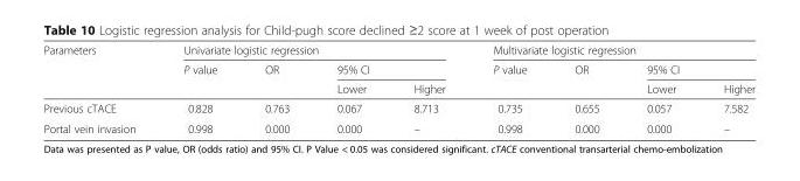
<table><thead><tr><td rowspan="3">Parameters</td><td colspan="4">Univariate logistic regression</td><td colspan="4">Multivariate logistic regression</td></tr><tr><td rowspan="2">P value</td><td rowspan="2">OR</td><td colspan="2">95% CI</td><td rowspan="2">P value</td><td rowspan="2">OR</td><td colspan="2">95% CI</td></tr><tr><td>Lower</td><td>Higher</td><td>Lower</td><td>Higher</td></tr></thead><tbody><tr><td>Previous cTACE</td><td>0.828</td><td>0.763</td><td>0.067</td><td>8.713</td><td>0.735</td><td>0.655</td><td>0.057</td><td>7.582</td></tr><tr><td>Portal vein invasion</td><td>0.998</td><td>0.000</td><td>0.000</td><td>–</td><td>0.998</td><td>0.000</td><td>0.000</td><td>–</td></tr></tbody></table>